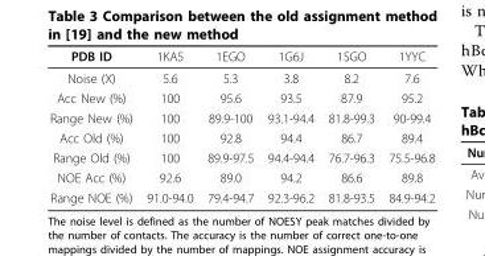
<table><thead><tr><td>PDB ID</td><td>1KA5</td><td>1EGO</td><td>1G6J</td><td>1SGO</td><td>1YYC</td></tr></thead><tbody><tr><td>Noise (X)</td><td>5.6</td><td>5.3</td><td>3.8</td><td>8.2</td><td>7.6</td></tr><tr><td>Acc New (%)</td><td>100</td><td>95.6</td><td>93.5</td><td>87.9</td><td>95.2</td></tr><tr><td>Range New (%)</td><td>100</td><td>89.9-100</td><td>93.1-94.4</td><td>81.8-99.3</td><td>90-99.4</td></tr><tr><td>Acc Old (%)</td><td>100</td><td>92.8</td><td>94.4</td><td>86.7</td><td>89.4</td></tr><tr><td>Range Old (%)</td><td>100</td><td>89.9-97.5</td><td>94.4-94.4</td><td>76.7-96.3</td><td>75.5-96.8</td></tr><tr><td>NOE Acc (%)</td><td>92.6</td><td>89.0</td><td>94.2</td><td>86.6</td><td>89.8</td></tr><tr><td>Range NOE (%)</td><td>91.0-94.0</td><td>79.4-94.7</td><td>92.3-96.2</td><td>81.8-93.5</td><td>84.9-94.2</td></tr></tbody></table>